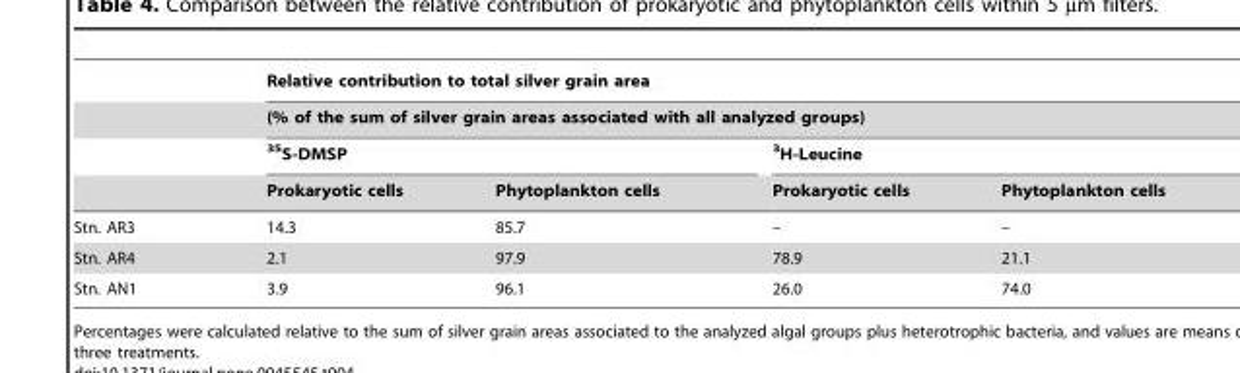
<table><thead><tr><td rowspan="4"></td><td rowspan="2" colspan="4">Relative contribution to total silver grain area (% of the sum of silver grain areas associated with all analyzed groups)</td></tr><tr></tr><tr><td colspan="2"><sup>35</sup>S-DMSP</td><td colspan="2"><sup>3</sup>H-Leucine</td></tr><tr><td>Prokaryotic cells</td><td>Phytoplankton cells</td><td>Prokaryotic cells</td><td>Phytoplankton cells</td></tr></thead><tbody><tr><td>Stn. AR3</td><td>14.3</td><td>85.7</td><td>–</td><td>–</td></tr><tr><td>Stn. AR4</td><td>2.1</td><td>97.9</td><td>78.9</td><td>21.1</td></tr><tr><td>Stn. AN1</td><td>3.9</td><td>96.1</td><td>26.0</td><td>74.0</td></tr></tbody></table>